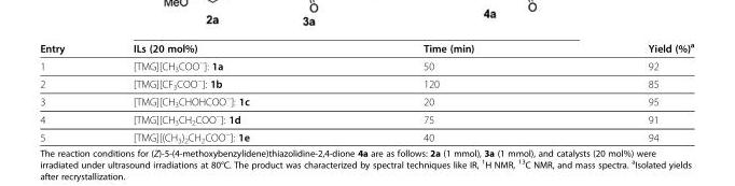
<table><thead><tr><td>Entry</td><td>ILs (20 mol%)</td><td>Time (min)</td><td>Yield (%)<sup>a</sup></td></tr></thead><tbody><tr><td>1</td><td>[TMG][CH<sub>3</sub>COO<sup>−</sup>]: 1a</td><td>50</td><td>92</td></tr><tr><td>2</td><td>[TMG][CF<sub>3</sub>COO<sup>−</sup>]: 1b</td><td>120</td><td>85</td></tr><tr><td>3</td><td>[TMG][CH<sub>3</sub>CHOHCOO<sup>−</sup>]: 1c</td><td>20</td><td>95</td></tr><tr><td>4</td><td>[TMG][CH<sub>3</sub>CH<sub>2</sub>COO<sup>−</sup>]: 1d</td><td>75</td><td>91</td></tr><tr><td>5</td><td>[TMG][(CH<sub>3</sub>)<sub>2</sub>CH<sub>2</sub>COO<sup>−</sup>]: 1e</td><td>40</td><td>94</td></tr></tbody></table>